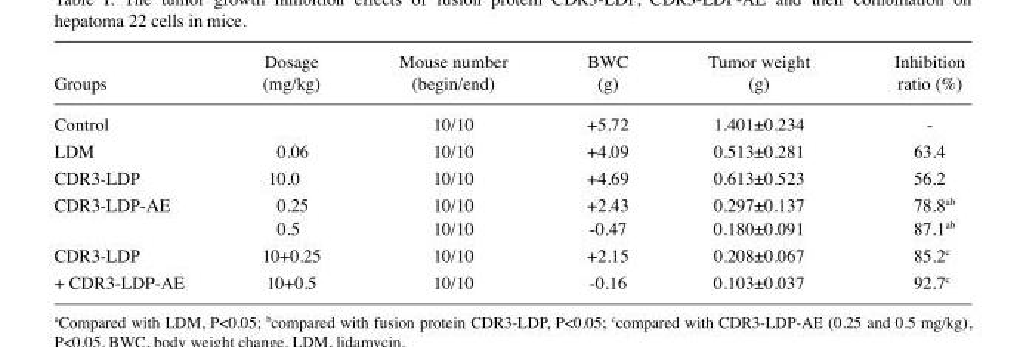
<table><thead><tr><td>Groups</td><td>Dosage (mg/kg)</td><td>Mouse number (begin/end)</td><td>BWC (g)</td><td>Tumor weight (g)</td><td>Inhibition ratio (%)</td></tr></thead><tbody><tr><td>Control</td><td></td><td>10/10</td><td>+5.72</td><td>1.401±0.234</td><td>-</td></tr><tr><td>LDM</td><td>0.06</td><td>10/10</td><td>+4.09</td><td>0.513±0.281</td><td>63.4</td></tr><tr><td>CDR3-LDP</td><td>10.0</td><td>10/10</td><td>+4.69</td><td>0.613±0.523</td><td>56.2</td></tr><tr><td rowspan="2">CDR3-LDP-AE</td><td>0.25</td><td>10/10</td><td>+2.43</td><td>0.297±0.137</td><td>78.8<sup>ab</sup></td></tr><tr><td>0.5</td><td>10/10</td><td>-0.47</td><td>0.180±0.091</td><td>87.1<sup>ab</sup></td></tr><tr><td>CDR3-LDP</td><td>10+0.25</td><td>10/10</td><td>+2.15</td><td>0.208±0.067</td><td>85.2<sup>c</sup></td></tr><tr><td>+ CDR3-LDP-AE</td><td>10+0.5</td><td>10/10</td><td>-0.16</td><td>0.103±0.037</td><td>92.7<sup>c</sup></td></tr></tbody></table>